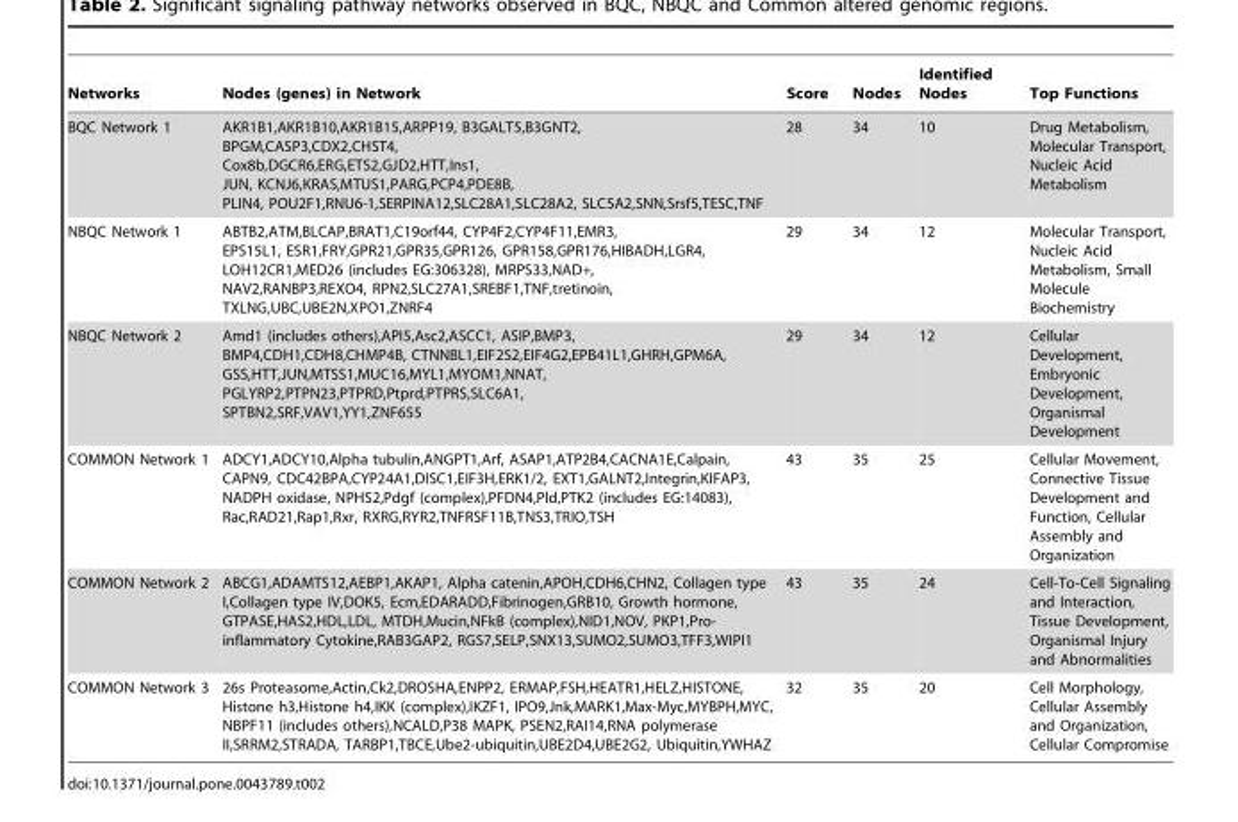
<table><thead><tr><td>Networks</td><td>Nodes (genes) in Network</td><td>Score</td><td>Nodes</td><td>Identified Nodes</td><td>Top Functions</td></tr></thead><tbody><tr><td>BQC Network 1</td><td>AKR1B1,AKR1B10,AKR1B15,ARPP19, B3GALT5,B3GNT2, BPGM,CASP3,CDX2,CHST4, Cox8b,DGCR6,ERG,ETS2,GJD2,HTT,Ins1, JUN, KCNJ6,KRAS,MTUS1,PARG,PCP4,PDE8B, PLIN4, POU2F1,RNU6-1,SERPINA12,SLC28A1,SLC28A2, SLC5A2,SNN,Srsf5,TESC,TNF</td><td>28</td><td>34</td><td>10</td><td>Drug Metabolism, Molecular Transport, Nucleic Acid Metabolism</td></tr><tr><td>NBQC Network 1</td><td>ABTB2,ATM,BLCAP,BRAT1,C19orf44, CYP4F2,CYP4F11,EMR3, EPS15L1, ESR1,FRY,GPR21,GPR35,GPR126, GPR158,GPR176,HIBADH,LGR4, LOH12CR1,MED26 (includes EG:306328), MRPS33,NAD+, NAV2,RANBP3,REXO4, RPN2,SLC27A1,SREBF1,TNF,tretinoin, TXLNG,UBC,UBE2N,XPO1,ZNRF4</td><td>29</td><td>34</td><td>12</td><td>Molecular Transport, Nucleic Acid Metabolism, Small Molecule Biochemistry</td></tr><tr><td>NBQC Network 2</td><td>Amd1 (includes others),API5,Asc2,ASCC1, ASIP,BMP3, BMP4,CDH1,CDH8,CHMP4B, CTNNBL1,EIF2S2,EIF4G2,EPB41L1,GHRH,GPM6A, GSS,HTT,JUN,MTSS1,MUC16,MYL1,MYOM1,NNAT, PGLYRP2,PTPN23,PTPRD,Ptprd,PTPRS,SLC6A1, SPTBN2,SRF,VAV1,YY1,ZNF655</td><td>29</td><td>34</td><td>12</td><td>Cellular Development, Embryonic Development, Organismal Development</td></tr><tr><td>COMMON Network 1</td><td>ADCY1,ADCY10,Alpha tubulin,ANGPT1,Arf, ASAP1,ATP2B4,CACNA1E,Calpain, CAPN9, CDC42BPA,CYP24A1,DISC1,EIF3H,ERK1/2, EXT1,GALNT2,Integrin,KIFAP3, NADPH oxidase, NPHS2,Pdgf (complex),PFDN4,Pld,PTK2 (includes EG:14083), Rac,RAD21,Rap1,Rxr, RXRG,RYR2,TNFRSF11B,TNS3,TRIO,TSH</td><td>43</td><td>35</td><td>25</td><td>Cellular Movement, Connective Tissue Development and Function, Cellular Assembly and Organization</td></tr><tr><td>COMMON Network 2</td><td>ABCG1,ADAMTS12,AEBP1,AKAP1, Alpha catenin,APOH,CDH6,CHN2, Collagen type I,Collagen type IV,DOK5, Ecm,EDARADD,Fibrinogen,GRB10, Growth hormone, GTPASE,HAS2,HDL,LDL, MTDH,Mucin,NFkB (complex),NID1,NOV, PKP1,Pro- inflammatory Cytokine,RAB3GAP2, RGS7,SELP,SNX13,SUMO2,SUMO3,TFF3,WIPI1</td><td>43</td><td>35</td><td>24</td><td>Cell-To-Cell Signaling and Interaction, Tissue Development, Organismal Injury and Abnormalities</td></tr><tr><td>COMMON Network 3</td><td>26s Proteasome,Actin,Ck2,DROSHA,ENPP2, ERMAP,FSH,HEATR1,HELZ,HISTONE, Histone h3,Histone h4,IKK (complex),IKZF1, IPO9,Jnk,MARK1,Max-Myc,MYBPH,MYC, NBPF11 (includes others),NCALD,P38 MAPK, PSEN2,RAI14,RNA polymerase II,SRRM2,STRADA, TARBP1,TBCE,Ube2-ubiquitin,UBE2D4,UBE2G2, Ubiquitin,YWHAZ</td><td>32</td><td>35</td><td>20</td><td>Cell Morphology, Cellular Assembly and Organization, Cellular Compromise</td></tr></tbody></table>